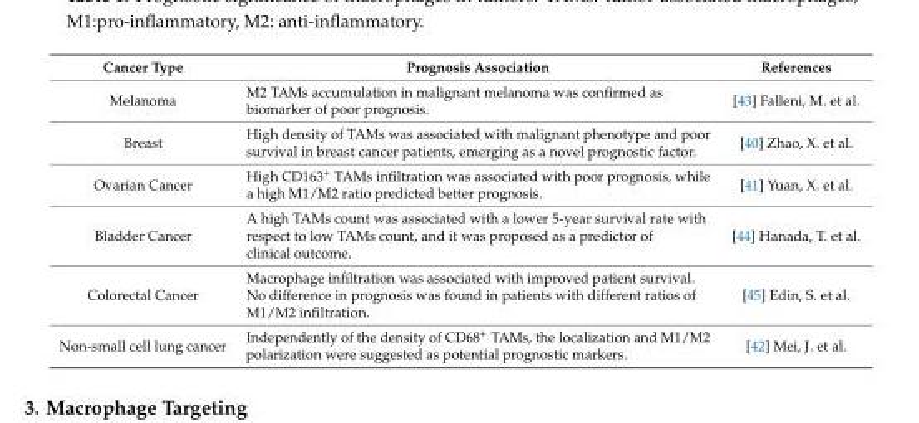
<table><thead><tr><td>Cancer Type</td><td>Prognosis Association</td><td>References</td></tr></thead><tbody><tr><td>Melanoma</td><td>M2 TAMs accumulation in malignant melanoma was confirmed as biomarker of poor prognosis.</td><td>[43] Falleni, M. et al.</td></tr><tr><td>Breast</td><td>High density of TAMs was associated with malignant phenotype and poor survival in breast cancer patients, emerging as a novel prognostic factor.</td><td>[40] Zhao, X. et al.</td></tr><tr><td>Ovarian Cancer</td><td>High CD163<sup>+</sup> TAMs infiltration was associated with poor prognosis, while a high M1/M2 ratio predicted better prognosis.</td><td>[41] Yuan, X. et al.</td></tr><tr><td>Bladder Cancer</td><td>A high TAMs count was associated with a lower 5-year survival rate with respect to low TAMs count, and it was proposed as a predictor of clinical outcome.</td><td>[44] Hanada, T. et al.</td></tr><tr><td>Colorectal Cancer</td><td>Macrophage infiltration was associated with improved patient survival. No difference in prognosis was found in patients with different ratios of M1/M2 infiltration.</td><td>[45] Edin, S. et al.</td></tr><tr><td>Non-small cell lung cancer</td><td>Independently of the density of CD68<sup>+</sup> TAMs, the localization and M1/M2 polarization were suggested as potential prognostic markers.</td><td>[42] Mei, J. et al.</td></tr></tbody></table>